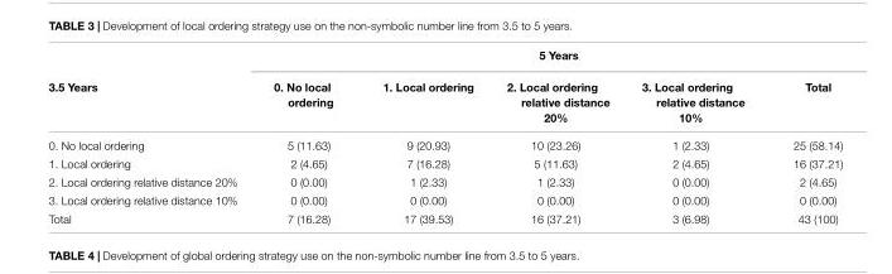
<table><thead><tr><td rowspan="2">3.5 Years</td><td colspan="5">5 Years</td></tr><tr><td>0. No local ordering</td><td>1. Local ordering</td><td>2. Local ordering relative distance 20%</td><td>3. Local ordering relative distance 10%</td><td>Total</td></tr></thead><tbody><tr><td>0. No local ordering</td><td>5 (11.63)</td><td>9 (20.93)</td><td>10 (23.26)</td><td>1 (2.33)</td><td>25 (58.14)</td></tr><tr><td>1. Local ordering</td><td>2 (4.65)</td><td>7 (16.28)</td><td>5 (11.63)</td><td>2 (4.65)</td><td>16 (37.21)</td></tr><tr><td>2. Local ordering relative distance 20%</td><td>0 (0.00)</td><td>1 (2.33)</td><td>1 (2.33)</td><td>0 (0.00)</td><td>2 (4.65)</td></tr><tr><td>3. Local ordering relative distance 10%</td><td>0 (0.00)</td><td>0 (0.00)</td><td>0 (0.00)</td><td>0 (0.00)</td><td>0 (0.00)</td></tr><tr><td>Total</td><td>7 (16.28)</td><td>17 (39.53)</td><td>16 (37.21)</td><td>3 (6.98)</td><td>43 (100)</td></tr></tbody></table>